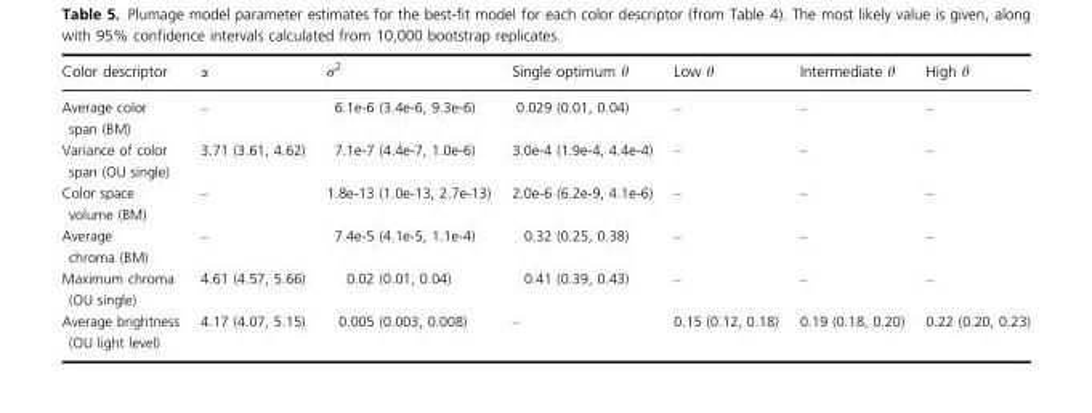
<table><thead><tr><td>Color descriptor</td><td>α</td><td>σ<sup>2</sup></td><td>Single optimum θ</td><td>Low θ</td><td>Intermediate θ</td><td>High θ</td></tr></thead><tbody><tr><td>Average color span (BM)</td><td>–</td><td>6.1e-6 (3.4e-6, 9.3e-6)</td><td>0.029 (0.01, 0.04)</td><td>–</td><td>–</td><td>–</td></tr><tr><td>Variance of color span (OU single)</td><td>3.71 (3.61, 4.62)</td><td>7.1e-7 (4.4e-7, 1.0e-6)</td><td>3.0e-4 (1.9e-4, 4.4e-4)</td><td>–</td><td>–</td><td>–</td></tr><tr><td>Color space volume (BM)</td><td>–</td><td>1.8e-13 (1.0e-13, 2.7e-13)</td><td>2.0e-6 (6.2e-9, 4.1e-6)</td><td>–</td><td>–</td><td>–</td></tr><tr><td>Average chroma (BM)</td><td>–</td><td>7.4e-5 (4.1e-5, 1.1e-4)</td><td>0.32 (0.25, 0.38)</td><td>–</td><td>–</td><td>–</td></tr><tr><td>Maximum chroma (OU single)</td><td>4.61 (4.57, 5.66)</td><td>0.02 (0.01, 0.04)</td><td>0.41 (0.39, 0.43)</td><td>–</td><td>–</td><td>–</td></tr><tr><td>Average brightness (OU light level)</td><td>4.17 (4.07, 5.15)</td><td>0.005 (0.003, 0.008)</td><td>–</td><td>0.15 (0.12, 0.18)</td><td>0.19 (0.18, 0.20)</td><td>0.22 (0.20, 0.23)</td></tr></tbody></table>